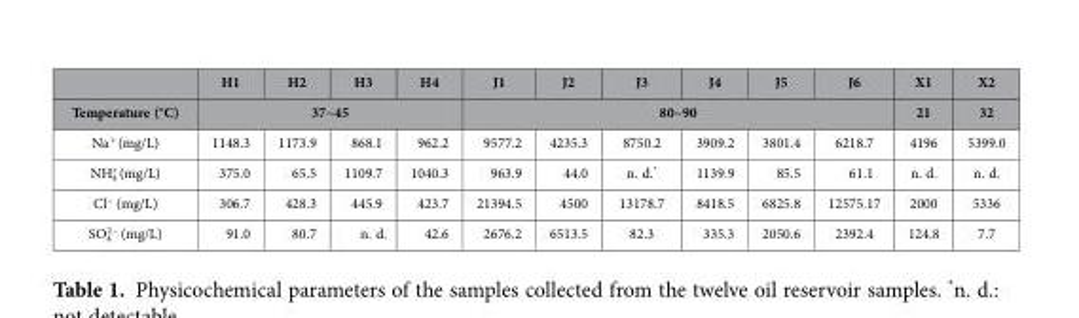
<table><thead><tr><td rowspan="2">Temperature (°C)</td><td>H1</td><td>H2</td><td>H3</td><td>H4</td><td>J1</td><td>J2</td><td>J3</td><td>J4</td><td>J5</td><td>J6</td><td rowspan="2">X1 21</td><td rowspan="2">X2 32</td></tr><tr><td colspan="4">37~45</td><td colspan="6">80~90</td></tr></thead><tbody><tr><td>Na <sup>+</sup> (mg/L)</td><td>1148.3</td><td>1173.9</td><td>868.1</td><td>962.2</td><td>9577.2</td><td>4235.3</td><td>8750.2</td><td>3909.2</td><td>3801.4</td><td>6218.7</td><td>4196</td><td>5399.0</td></tr><tr><td>NH<sub>4</sub> <sup>+</sup> (mg/L)</td><td>375.0</td><td>65.5</td><td>1109.7</td><td>1040.3</td><td>963.9</td><td>44.0</td><td>n. d.*</td><td>1139.9</td><td>85.5</td><td>61.1</td><td>n. d.</td><td>n. d.</td></tr><tr><td>Cl<sup>–</sup> (mg/L)</td><td>306.7</td><td>428.3</td><td>445.9</td><td>423.7</td><td>21394.5</td><td>4500</td><td>13178.7</td><td>8418.5</td><td>6825.8</td><td>12575.17</td><td>2000</td><td>5336</td></tr><tr><td>SO<sub>4</sub> <sup>2–</sup> (mg/L)</td><td>91.0</td><td>80.7</td><td>n. d.</td><td>42.6</td><td>2676.2</td><td>6513.5</td><td>82.3</td><td>335.3</td><td>2050.6</td><td>2392.4</td><td>124.8</td><td>7.7</td></tr></tbody></table>